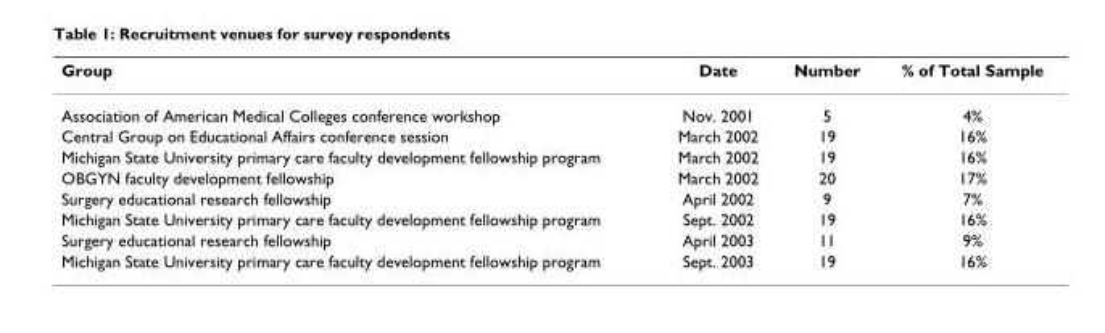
<table><thead><tr><td>Group</td><td>Date</td><td>Number</td><td>% of Total Sample</td></tr></thead><tbody><tr><td>Association of American Medical Colleges conference workshop</td><td>Nov. 2001</td><td>5</td><td>4%</td></tr><tr><td>Central Group on Educational Affairs conference session</td><td>March 2002</td><td>19</td><td>16%</td></tr><tr><td>Michigan State University primary care faculty development fellowship program</td><td>March 2002</td><td>19</td><td>16%</td></tr><tr><td>OBGYN faculty development fellowship</td><td>March 2002</td><td>20</td><td>17%</td></tr><tr><td>Surgery educational research fellowship</td><td>April 2002</td><td>9</td><td>7%</td></tr><tr><td>Michigan State University primary care faculty development fellowship program</td><td>Sept. 2002</td><td>19</td><td>16%</td></tr><tr><td>Surgery educational research fellowship</td><td>April 2003</td><td>11</td><td>9%</td></tr><tr><td>Michigan State University primary care faculty development fellowship program</td><td>Sept. 2003</td><td>19</td><td>16%</td></tr></tbody></table>